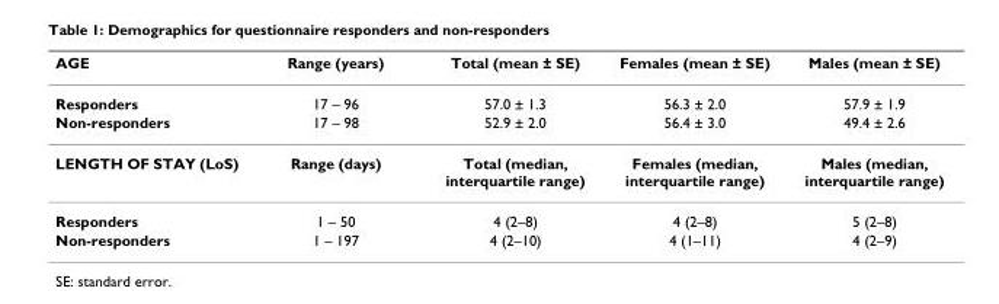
<table><thead><tr><td>AGE</td><td>Range (years)</td><td>Total (mean ± SE)</td><td>Females (mean ± SE)</td><td>Males (mean ± SE)</td></tr></thead><tbody><tr><td>Responders</td><td>17 – 96</td><td>57.0 ± 1.3</td><td>56.3 ± 2.0</td><td>57.9 ± 1.9</td></tr><tr><td>Non-responders</td><td>17 – 98</td><td>52.9 ± 2.0</td><td>56.4 ± 3.0</td><td>49.4 ± 2.6</td></tr><tr><td>LENGTH OF STAY (LoS)</td><td>Range (days)</td><td>Total (median, interquartile range)</td><td>Females (median, interquartile range)</td><td>Males (median, interquartile range)</td></tr><tr><td>Responders</td><td>1 – 50</td><td>4 (2–8)</td><td>4 (2–8)</td><td>5 (2–8)</td></tr><tr><td>Non-responders</td><td>1 – 197</td><td>4 (2–10)</td><td>4 (1–11)</td><td>4 (2–9)</td></tr></tbody></table>